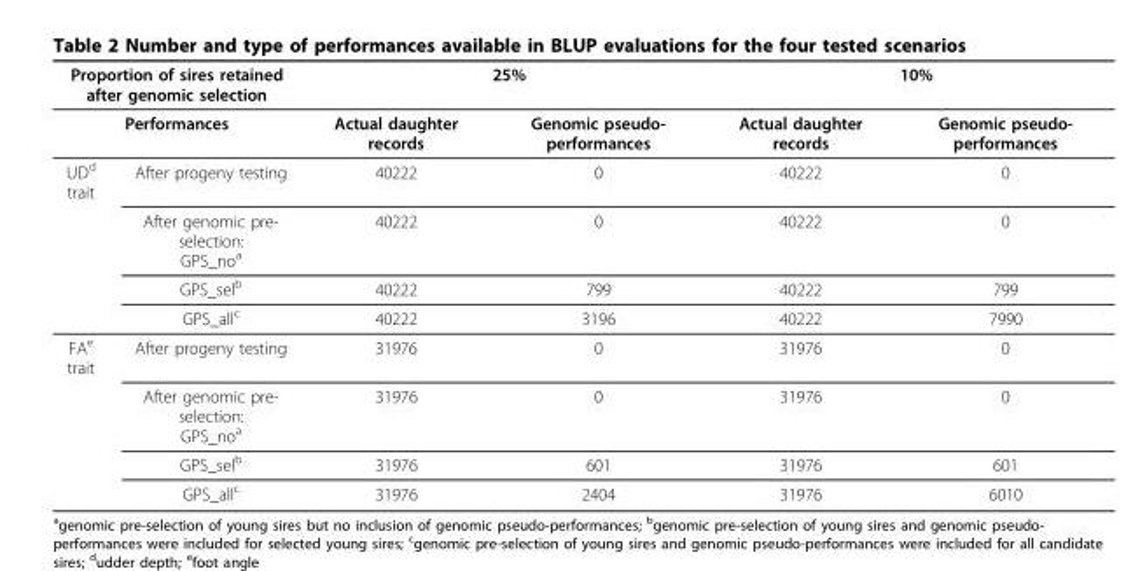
<table><thead><tr><td rowspan="2" colspan="2">Proportion of sires retained after genomic selection Performances</td><td colspan="2">25%</td><td colspan="2">10%</td></tr><tr><td rowspan="2">Actual daughter records 40222</td><td rowspan="2">Genomic pseudo- performances 0</td><td rowspan="2">Actual daughter records 40222</td><td rowspan="2">Genomic pseudo- performances 0</td></tr><tr><td>UD<sup>d</sup> trait</td><td>After progeny testing</td></tr></thead><tbody><tr><td></td><td>After genomic pre- selection: GPS_no<sup>a</sup></td><td>40222</td><td>0</td><td>40222</td><td>0</td></tr><tr><td></td><td>GPS_sel<sup>b</sup></td><td>40222</td><td>799</td><td>40222</td><td>799</td></tr><tr><td></td><td>GPS_all<sup>c</sup></td><td>40222</td><td>3196</td><td>40222</td><td>7990</td></tr><tr><td rowspan="4">FA<sup>e</sup> trait</td><td>After progeny testing</td><td>31976</td><td>0</td><td>31976</td><td>0</td></tr><tr><td>After genomic pre- selection: GPS_no<sup>a</sup></td><td>31976</td><td>0</td><td>31976</td><td>0</td></tr><tr><td>GPS_sel<sup>b</sup></td><td>31976</td><td>601</td><td>31976</td><td>601</td></tr><tr><td>GPS_all<sup>c</sup></td><td>31976</td><td>2404</td><td>31976</td><td>6010</td></tr></tbody></table>